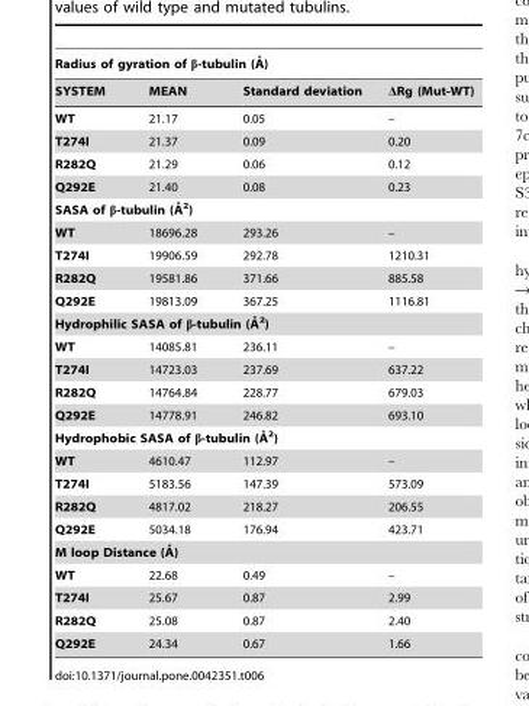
<table><thead><tr><td colspan="4">Radius of gyration of b-tubulin (A˚ )</td></tr><tr><td>SYSTEM</td><td>MEAN</td><td>Standard deviation</td><td>ΔRg (Mut-WT)</td></tr></thead><tbody><tr><td>WT</td><td>21.17</td><td>0.05</td><td>–</td></tr><tr><td>T274I</td><td>21.37</td><td>0.09</td><td>0.20</td></tr><tr><td>R282Q</td><td>21.29</td><td>0.06</td><td>0.12</td></tr><tr><td>Q292E</td><td>21.40</td><td>0.08</td><td>0.23</td></tr><tr><td colspan="4">SASA of b-tubulin (A˚ 2)</td></tr><tr><td>WT</td><td>18696.28</td><td>293.26</td><td>–</td></tr><tr><td>T274I</td><td>19906.59</td><td>292.78</td><td>1210.31</td></tr><tr><td>R282Q</td><td>19581.86</td><td>371.66</td><td>885.58</td></tr><tr><td>Q292E</td><td>19813.09</td><td>367.25</td><td>1116.81</td></tr><tr><td colspan="4">Hydrophilic SASA of b-tubulin (A˚ 2)</td></tr><tr><td>WT</td><td>14085.81</td><td>236.11</td><td>–</td></tr><tr><td>T274I</td><td>14723.03</td><td>237.69</td><td>637.22</td></tr><tr><td>R282Q</td><td>14764.84</td><td>228.77</td><td>679.03</td></tr><tr><td>Q292E</td><td>14778.91</td><td>246.82</td><td>693.10</td></tr><tr><td colspan="4">Hydrophobic SASA of b-tubulin (A˚ 2)</td></tr><tr><td>WT</td><td>4610.47</td><td>112.97</td><td>–</td></tr><tr><td>T274I</td><td>5183.56</td><td>147.39</td><td>573.09</td></tr><tr><td>R282Q</td><td>4817.02</td><td>218.27</td><td>206.55</td></tr><tr><td>Q292E</td><td>5034.18</td><td>176.94</td><td>423.71</td></tr><tr><td colspan="4">M loop Distance (A˚ )</td></tr><tr><td>WT</td><td>22.68</td><td>0.49</td><td>–</td></tr><tr><td>T274I</td><td>25.67</td><td>0.87</td><td>2.99</td></tr><tr><td>R282Q</td><td>25.08</td><td>0.87</td><td>2.40</td></tr><tr><td>Q292E</td><td>24.34</td><td>0.67</td><td>1.66</td></tr></tbody></table>